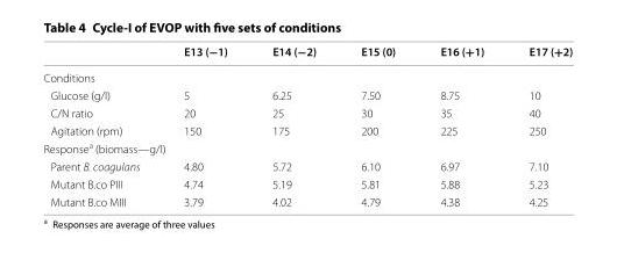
<table><thead><tr><td></td><td>E13 (−1)</td><td>E14 (−2)</td><td>E15 (0)</td><td>E16 (+1)</td><td>E17 (+2)</td></tr></thead><tbody><tr><td colspan="6">Conditions</td></tr><tr><td>Glucose (g/l)</td><td>5</td><td>6.25</td><td>7.50</td><td>8.75</td><td>10</td></tr><tr><td>C/N ratio</td><td>20</td><td>25</td><td>30</td><td>35</td><td>40</td></tr><tr><td>Agitation (rpm)</td><td>150</td><td>175</td><td>200</td><td>225</td><td>250</td></tr><tr><td colspan="6">Response<sup>a</sup> (biomass—g/l)</td></tr><tr><td>Parent B. coagulans</td><td>4.80</td><td>5.72</td><td>6.10</td><td>6.97</td><td>7.10</td></tr><tr><td>Mutant B.co PIII</td><td>4.74</td><td>5.19</td><td>5.81</td><td>5.88</td><td>5.23</td></tr><tr><td>Mutant B.co MIII</td><td>3.79</td><td>4.02</td><td>4.79</td><td>4.38</td><td>4.25</td></tr></tbody></table>